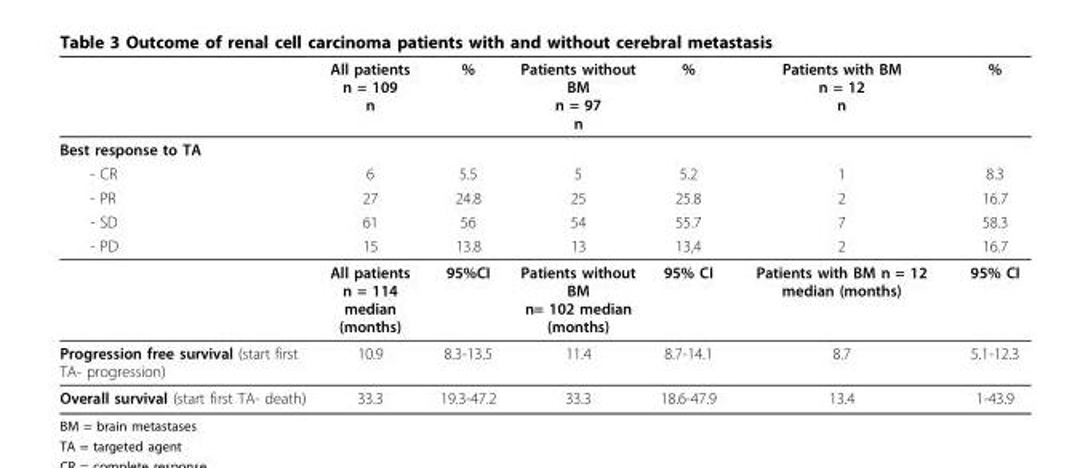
<table><thead><tr><td></td><td>All patients n = 109 n</td><td>%</td><td>Patients without BM n = 97 n</td><td>%</td><td>Patients with BM n = 12 n</td><td>%</td></tr></thead><tbody><tr><td colspan="7">Best response to TA</td></tr><tr><td>- CR</td><td>6</td><td>5.5</td><td>5</td><td>5.2</td><td>1</td><td>8.3</td></tr><tr><td>- PR</td><td>27</td><td>24.8</td><td>25</td><td>25.8</td><td>2</td><td>16.7</td></tr><tr><td>- SD</td><td>61</td><td>56</td><td>54</td><td>55.7</td><td>7</td><td>58.3</td></tr><tr><td rowspan="2">- PD</td><td>15</td><td>13.8</td><td>13</td><td>13,4</td><td>2</td><td>16.7</td></tr><tr><td>All patients n = 114 median (months)</td><td>95%CI</td><td>Patients without BM n= 102 median (months)</td><td>95% CI</td><td>Patients with BM n = 12 median (months)</td><td>95% CI</td></tr><tr><td>Progression free survival (start first TA- progression)</td><td>10.9</td><td>8.3-13.5</td><td>11.4</td><td>8.7-14.1</td><td>8.7</td><td>5.1-12.3</td></tr><tr><td>Overall survival (start first TA- death)</td><td>33.3</td><td>19.3-47.2</td><td>33.3</td><td>18.6-47.9</td><td>13.4</td><td>1-43.9</td></tr></tbody></table>